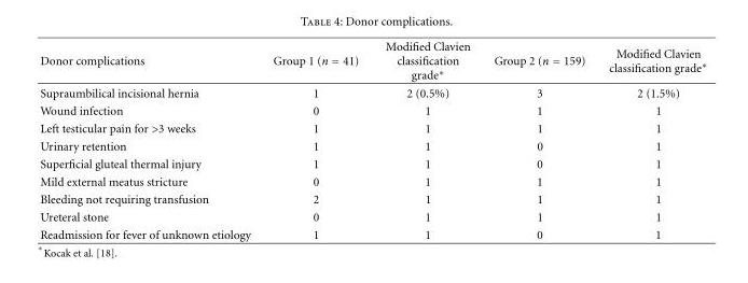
<table><thead><tr><td>Donor complications</td><td>Group 1 (n = 41)</td><td>Modified Clavien classification grade∗</td><td>Group 2 (n = 159)</td><td>Modified Clavien classification grade∗</td></tr></thead><tbody><tr><td>Supraumbilical incisional hernia</td><td>1</td><td>2 (0.5%)</td><td>3</td><td>2 (1.5%)</td></tr><tr><td>Wound infection</td><td>0</td><td>1</td><td>1</td><td>1</td></tr><tr><td>Left testicular pain for &gt;3 weeks</td><td>1</td><td>1</td><td>1</td><td>1</td></tr><tr><td>Urinary retention</td><td>1</td><td>1</td><td>0</td><td>1</td></tr><tr><td>Superficial gluteal thermal injury</td><td>1</td><td>1</td><td>0</td><td>1</td></tr><tr><td>Mild external meatus stricture</td><td>0</td><td>1</td><td>1</td><td>1</td></tr><tr><td>Bleeding not requiring transfusion</td><td>2</td><td>1</td><td>1</td><td>1</td></tr><tr><td>Ureteral stone</td><td>0</td><td>1</td><td>1</td><td>1</td></tr><tr><td>Readmission for fever of unknown etiology</td><td>1</td><td>1</td><td>0</td><td>1</td></tr></tbody></table>